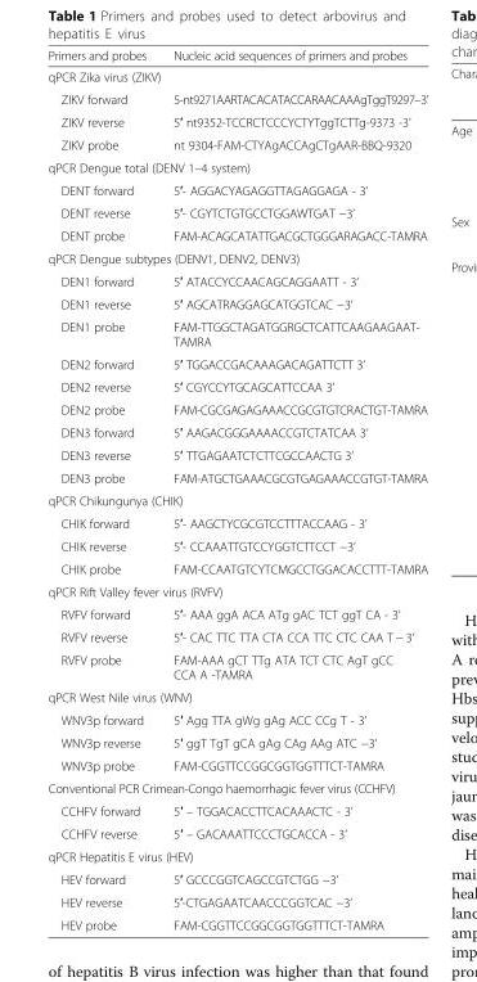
<table><thead><tr><td>Primers and probes</td><td>Nucleic acid sequences of primers and probes</td></tr></thead><tbody><tr><td colspan="2">qPCR Zika virus (ZIKV)</td></tr><tr><td>ZIKV forward</td><td>5-nt9271AARTACACATACCARAACAAAgTggT9297–3’</td></tr><tr><td>ZIKV reverse</td><td>5′ nt9352-TCCRCTCCCYCTYTggTCTTg-9373 -3’</td></tr><tr><td>ZIKV probe</td><td>nt 9304-FAM-CTYAgACCAgCTgAAR-BBQ-9320</td></tr><tr><td colspan="2">qPCR Dengue total (DENV 1–4 system)</td></tr><tr><td>DENT forward</td><td>5′- AGGACYAGAGGTTAGAGGAGA - 3’</td></tr><tr><td>DENT reverse</td><td>5′- CGYTCTGTGCCTGGAWTGAT −3’</td></tr><tr><td>DENT probe</td><td>FAM-ACAGCATATTGACGCTGGGARAGACC-TAMRA</td></tr><tr><td colspan="2">qPCR Dengue subtypes (DENV1, DENV2, DENV3)</td></tr><tr><td>DEN1 forward</td><td>5′ ATACCYCCAACAGCAGGAATT - 3’</td></tr><tr><td>DEN1 reverse</td><td>5′ AGCATRAGGAGCATGGTCAC −3’</td></tr><tr><td>DEN1 probe</td><td>FAM-TTGGCTAGATGGRGCTCATTCAAGAAGAAT- TAMRA</td></tr><tr><td>DEN2 forward</td><td>5′ TGGACCGACAAAGACAGATTCTT 3’</td></tr><tr><td>DEN2 reverse</td><td>5′ CGYCCYTGCAGCATTCCAA 3’</td></tr><tr><td>DEN2 probe</td><td>FAM-CGCGAGAGAAACCGCGTGTCRACTGT-TAMRA</td></tr><tr><td>DEN3 forward</td><td>5′ AAGACGGGAAAACCGTCTATCAA 3’</td></tr><tr><td>DEN3 reverse</td><td>5′ TTGAGAATCTCTTCGCCAACTG 3’</td></tr><tr><td>DEN3 probe</td><td>FAM-ATGCTGAAACGCGTGAGAAACCGTGT-TAMRA</td></tr><tr><td colspan="2">qPCR Chikungunya (CHIK)</td></tr><tr><td>CHIK forward</td><td>5′- AAGCTYCGCGTCCTTTACCAAG - 3’</td></tr><tr><td>CHIK reverse</td><td>5′- CCAAATTGTCCYGGTCTTCCT −3’</td></tr><tr><td>CHIK probe</td><td>FAM-CCAATGTCYTCMGCCTGGACACCTTT-TAMRA</td></tr><tr><td colspan="2">qPCR Rift Valley fever virus (RVFV)</td></tr><tr><td>RVFV forward</td><td>5′- AAA ggA ACA ATg gAC TCT ggT CA - 3’</td></tr><tr><td>RVFV reverse</td><td>5′- CAC TTC TTA CTA CCA TTC CTC CAA T − 3’</td></tr><tr><td>RVFV probe</td><td>FAM-AAA gCT TTg ATA TCT CTC AgT gCC CCA A -TAMRA</td></tr><tr><td colspan="2">qPCR West Nile virus (WNV)</td></tr><tr><td>WNV3p forward</td><td>5′ Agg TTA gWg gAg ACC CCg T - 3’</td></tr><tr><td>WNV3p reverse</td><td>5′ ggT TgT gCA gAg CAg AAg ATC −3’</td></tr><tr><td>WNV3p probe</td><td>FAM-CGGTTCCGGCGGTGGTTTCT-TAMRA</td></tr><tr><td colspan="2">Conventional PCR Crimean-Congo haemorrhagic fever virus (CCHFV)</td></tr><tr><td>CCHFV forward</td><td>5′ – TGGACACCTTCACAAACTC - 3’</td></tr><tr><td>CCHFV reverse</td><td>5′ – GACAAATTCCCTGCACCA - 3’</td></tr><tr><td colspan="2">qPCR Hepatitis E virus (HEV)</td></tr><tr><td>HEV forward</td><td>5′ GCCCGGTCAGCCGTCTGG −3’</td></tr><tr><td>HEV reverse</td><td>5′-CTGAGAATCAACCCGGTCAC −3’</td></tr><tr><td>HEV probe</td><td>FAM-CGGTTCCGGCGGTGGTTTCT-TAMRA</td></tr></tbody></table>